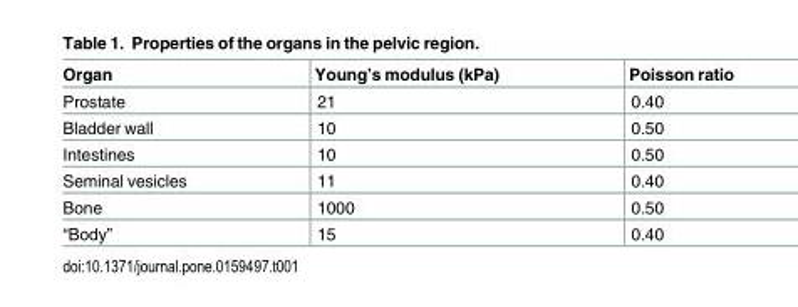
<table><thead><tr><td>Organ</td><td>Young’s modulus (kPa)</td><td>Poisson ratio</td></tr></thead><tbody><tr><td>Prostate</td><td>21</td><td>0.40</td></tr><tr><td>Bladder wall</td><td>10</td><td>0.50</td></tr><tr><td>Intestines</td><td>10</td><td>0.50</td></tr><tr><td>Seminal vesicles</td><td>11</td><td>0.40</td></tr><tr><td>Bone</td><td>1000</td><td>0.50</td></tr><tr><td>“Body”</td><td>15</td><td>0.40</td></tr></tbody></table>